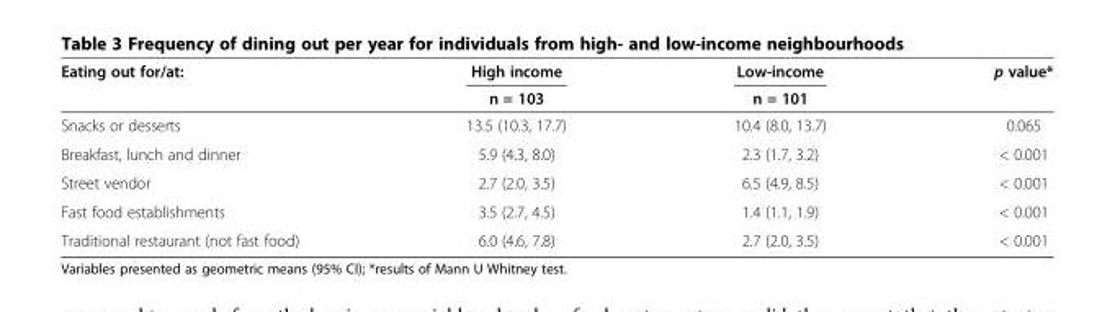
<table><thead><tr><td rowspan="2">Eating out for/at:</td><td rowspan="2">High income n = 103</td><td rowspan="2">Low-income n = 101</td><td rowspan="2">p value*</td></tr><tr></tr></thead><tbody><tr><td>Snacks or desserts</td><td>13.5 (10.3, 17.7)</td><td>10.4 (8.0, 13.7)</td><td>0.065</td></tr><tr><td>Breakfast, lunch and dinner</td><td>5.9 (4.3, 8.0)</td><td>2.3 (1.7, 3.2)</td><td>&lt; 0.001</td></tr><tr><td>Street vendor</td><td>2.7 (2.0, 3.5)</td><td>6.5 (4.9, 8.5)</td><td>&lt; 0.001</td></tr><tr><td>Fast food establishments</td><td>3.5 (2.7, 4.5)</td><td>1.4 (1.1, 1.9)</td><td>&lt; 0.001</td></tr><tr><td>Traditional restaurant (not fast food)</td><td>6.0 (4.6, 7.8)</td><td>2.7 (2.0, 3.5)</td><td>&lt; 0.001</td></tr></tbody></table>